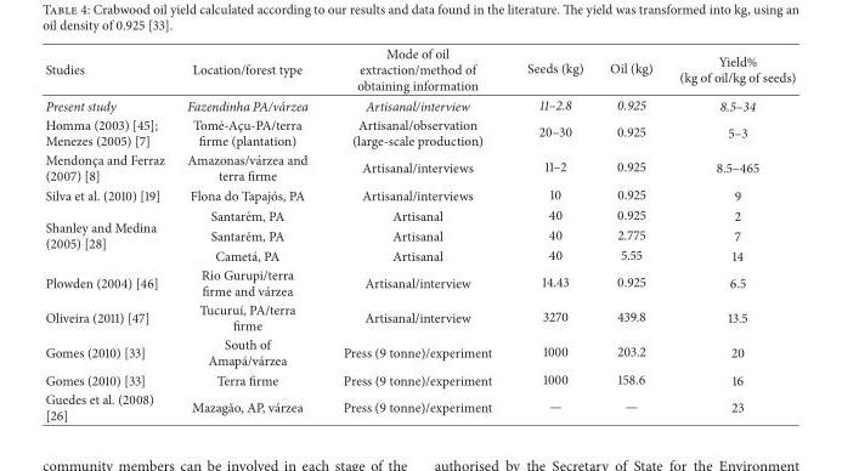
<table><thead><tr><td>Studies</td><td>Location/forest type</td><td>Mode of oil extraction/method of obtaining information</td><td>Seeds (kg)</td><td>Oil (kg)</td><td>Yield% (kg of oil/kg of seeds)</td></tr></thead><tbody><tr><td>Present study</td><td>Fazendinha PA/v´arzea</td><td>Artisanal/interview</td><td>11–2.8</td><td>0.925</td><td>8.5–34</td></tr><tr><td>Homma (2003) [45]; Menezes (2005) [7]</td><td>Tom´e-Ac¸u-PA/terra firme (plantation)</td><td>Artisanal/observation (large-scale production)</td><td>20–30</td><td>0.925</td><td>5–3</td></tr><tr><td>Mendonc¸a and Ferraz (2007) [8]</td><td>Amazonas/v´arzea and terra firme</td><td>Artisanal/interviews</td><td>11–2</td><td>0.925</td><td>8.5–465</td></tr><tr><td>Silva et al. (2010) [19]</td><td>Flona do Tapaj´os, PA</td><td>Artisanal/interviews</td><td>10</td><td>0.925</td><td>9</td></tr><tr><td rowspan="3">Shanley and Medina (2005) [28]</td><td>Santar´em, PA</td><td>Artisanal</td><td>40</td><td>0.925</td><td>2</td></tr><tr><td>Santar´em, PA</td><td>Artisanal</td><td>40</td><td>2.775</td><td>7</td></tr><tr><td>Camet´a, PA</td><td>Artisanal</td><td>40</td><td>5.55</td><td>14</td></tr><tr><td>Plowden (2004) [46]</td><td>Rio Gurupi/terra firme and v´arzea</td><td>Artisanal/interview</td><td>14.43</td><td>0.925</td><td>6.5</td></tr><tr><td>Oliveira (2011) [47]</td><td>Tucuru´ı, PA/terra firme</td><td>Artisanal/interview</td><td>3270</td><td>439.8</td><td>13.5</td></tr><tr><td>Gomes (2010) [33]</td><td>South of Amap´a/v´arzea</td><td>Press (9 tonne)/experiment</td><td>1000</td><td>203.2</td><td>20</td></tr><tr><td>Gomes (2010) [33]</td><td>Terra firme</td><td>Press (9 tonne)/experiment</td><td>1000</td><td>158.6</td><td>16</td></tr><tr><td>Guedes et al. (2008) [26]</td><td>Mazag˜ao, AP, v´arzea</td><td>Press (9 tonne)/experiment</td><td>—</td><td>—</td><td>23</td></tr></tbody></table>